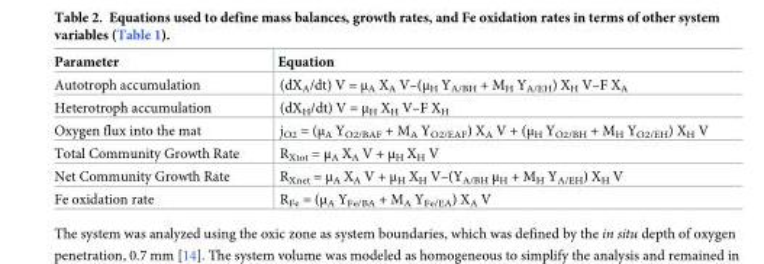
<table><thead><tr><td>Parameter</td><td>Equation</td></tr></thead><tbody><tr><td>Autotroph accumulation</td><td>(dX<sub>A</sub>/dt) V = μ<sub>A</sub> X<sub>A</sub> V–(μ<sub>H</sub> Y<sub>A/BH</sub> + M<sub>H</sub> Y<sub>A/EH</sub>) X<sub>H</sub> V–F X<sub>A</sub></td></tr><tr><td>Heterotroph accumulation</td><td>(dX<sub>H</sub>/dt) V = μ<sub>H</sub> X<sub>H</sub> V–F X<sub>H</sub></td></tr><tr><td>Oxygen flux into the mat</td><td>j<sub>O2</sub> = (μ<sub>A</sub> Y<sub>O2/BAF</sub> + M<sub>A</sub> Y<sub>O2/EAF</sub>) X<sub>A</sub> V + (μ<sub>H</sub> Y<sub>O2/BH</sub> + M<sub>H</sub> Y<sub>O2/EH</sub>) X<sub>H</sub> V</td></tr><tr><td>Total Community Growth Rate</td><td>R<sub>Xtot</sub> = μ<sub>A</sub> X<sub>A</sub> V + μ<sub>H</sub> X<sub>H</sub> V</td></tr><tr><td>Net Community Growth Rate</td><td>R<sub>Xnet</sub> = μ<sub>A</sub> X<sub>A</sub> V + μ<sub>H</sub> X<sub>H</sub> V–(Y<sub>A/BH</sub> μ<sub>H</sub> + M<sub>H</sub> Y<sub>A/EH</sub>) X<sub>H</sub> V</td></tr><tr><td>Fe oxidation rate</td><td>R<sub>Fe</sub> = (μ<sub>A</sub> Y<sub>Fe/BA</sub> + M<sub>A</sub> Y<sub>Fe/EA</sub>) X<sub>A</sub> V</td></tr></tbody></table>